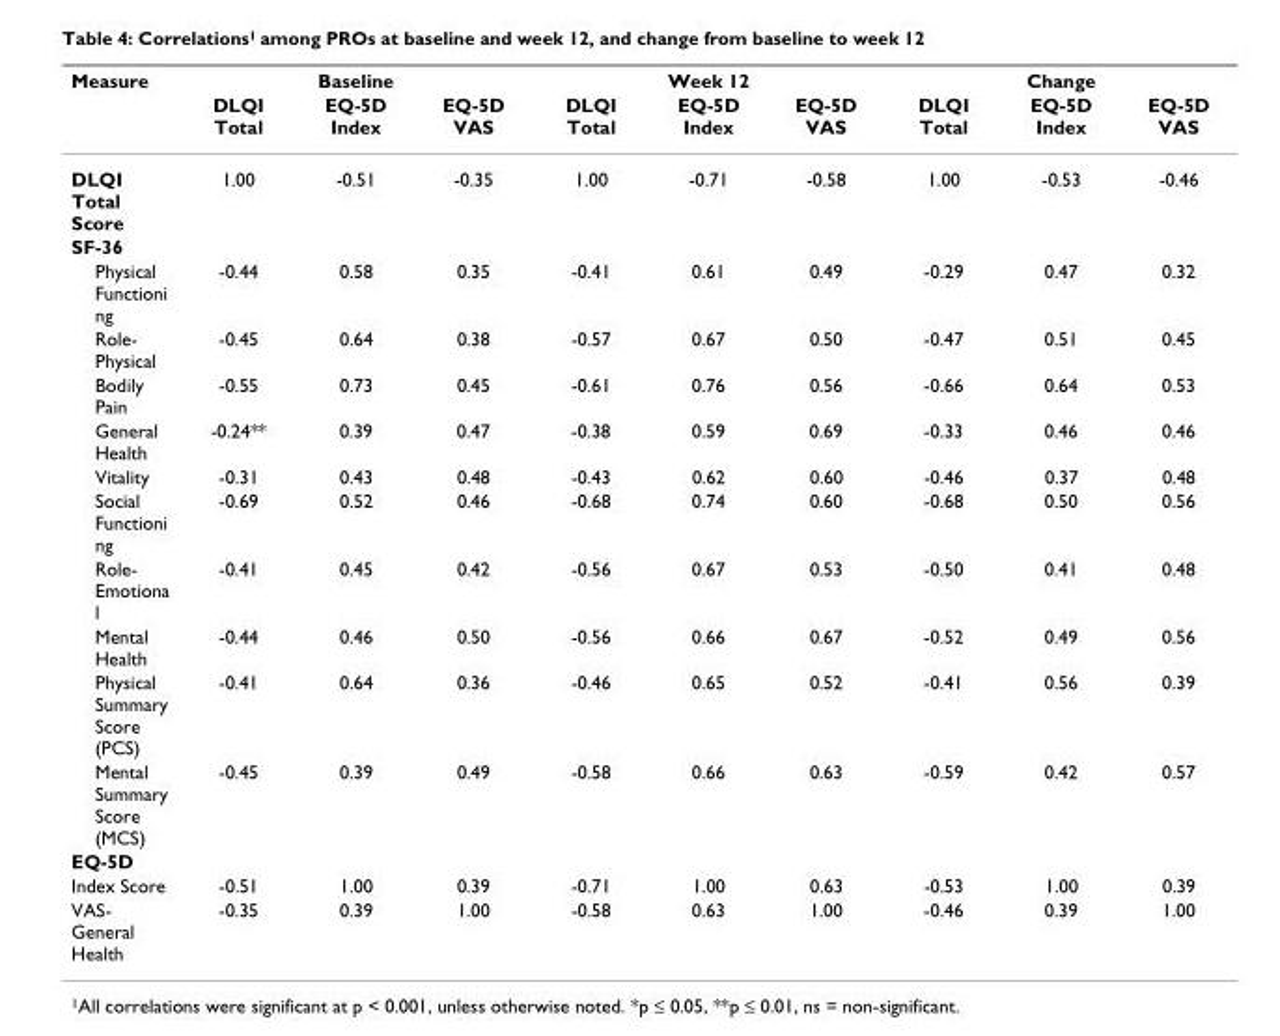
<table><thead><tr><td rowspan="2">Measure</td><td colspan="3">Baseline</td><td colspan="3">Week 12</td><td colspan="3">Change</td></tr><tr><td>DLQI Total</td><td>EQ-5D Index</td><td>EQ-5D VAS</td><td>DLQI Total</td><td>EQ-5D Index</td><td>EQ-5D VAS</td><td>DLQI Total</td><td>EQ-5D Index</td><td>EQ-5D VAS</td></tr></thead><tbody><tr><td>DLQI Total Score</td><td>1.00</td><td>-0.51</td><td>-0.35</td><td>1.00</td><td>-0.71</td><td>-0.58</td><td>1.00</td><td>-0.53</td><td>-0.46</td></tr><tr><td colspan="10">SF-36</td></tr><tr><td>Physical Functioni ng</td><td>-0.44</td><td>0.58</td><td>0.35</td><td>-0.41</td><td>0.61</td><td>0.49</td><td>-0.29</td><td>0.47</td><td>0.32</td></tr><tr><td>Role- Physical</td><td>-0.45</td><td>0.64</td><td>0.38</td><td>-0.57</td><td>0.67</td><td>0.50</td><td>-0.47</td><td>0.51</td><td>0.45</td></tr><tr><td>Bodily Pain</td><td>-0.55</td><td>0.73</td><td>0.45</td><td>-0.61</td><td>0.76</td><td>0.56</td><td>-0.66</td><td>0.64</td><td>0.53</td></tr><tr><td>General Health</td><td>-0.24**</td><td>0.39</td><td>0.47</td><td>-0.38</td><td>0.59</td><td>0.69</td><td>-0.33</td><td>0.46</td><td>0.46</td></tr><tr><td>Vitality</td><td>-0.31</td><td>0.43</td><td>0.48</td><td>-0.43</td><td>0.62</td><td>0.60</td><td>-0.46</td><td>0.37</td><td>0.48</td></tr><tr><td>Social Functioni ng</td><td>-0.69</td><td>0.52</td><td>0.46</td><td>-0.68</td><td>0.74</td><td>0.60</td><td>-0.68</td><td>0.50</td><td>0.56</td></tr><tr><td>Role- Emotiona l</td><td>-0.41</td><td>0.45</td><td>0.42</td><td>-0.56</td><td>0.67</td><td>0.53</td><td>-0.50</td><td>0.41</td><td>0.48</td></tr><tr><td>Mental Health</td><td>-0.44</td><td>0.46</td><td>0.50</td><td>-0.56</td><td>0.66</td><td>0.67</td><td>-0.52</td><td>0.49</td><td>0.56</td></tr><tr><td>Physical Summary Score (PCS)</td><td>-0.41</td><td>0.64</td><td>0.36</td><td>-0.46</td><td>0.65</td><td>0.52</td><td>-0.41</td><td>0.56</td><td>0.39</td></tr><tr><td>Mental Summary Score (MCS)</td><td>-0.45</td><td>0.39</td><td>0.49</td><td>-0.58</td><td>0.66</td><td>0.63</td><td>-0.59</td><td>0.42</td><td>0.57</td></tr><tr><td colspan="10">EQ-5D</td></tr><tr><td>Index Score</td><td>-0.51</td><td>1.00</td><td>0.39</td><td>-0.71</td><td>1.00</td><td>0.63</td><td>-0.53</td><td>1.00</td><td>0.39</td></tr><tr><td>VAS- General Health</td><td>-0.35</td><td>0.39</td><td>1.00</td><td>-0.58</td><td>0.63</td><td>1.00</td><td>-0.46</td><td>0.39</td><td>1.00</td></tr></tbody></table>